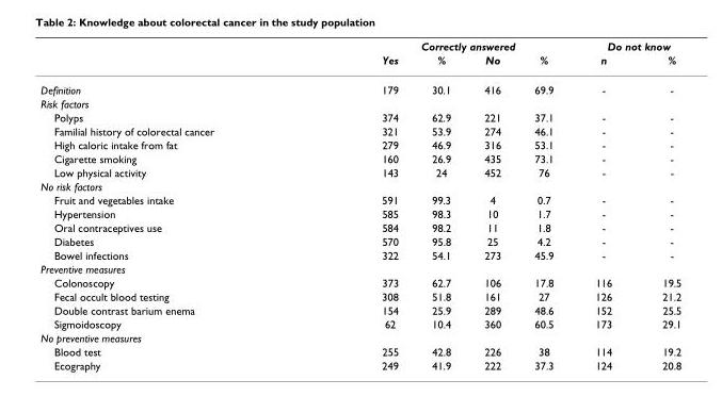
<table><thead><tr><td rowspan="2"></td><td colspan="4">Correctly answered</td><td colspan="2">Do not know</td></tr><tr><td>Yes</td><td>%</td><td>No</td><td>%</td><td>n</td><td>%</td></tr></thead><tbody><tr><td>Definition</td><td>179</td><td>30.1</td><td>416</td><td>69.9</td><td>-</td><td>-</td></tr><tr><td colspan="7">Risk factors</td></tr><tr><td>Polyps</td><td>374</td><td>62.9</td><td>221</td><td>37.1</td><td>-</td><td>-</td></tr><tr><td>Familial history of colorectal cancer</td><td>321</td><td>53.9</td><td>274</td><td>46.1</td><td>-</td><td>-</td></tr><tr><td>High caloric intake from fat</td><td>279</td><td>46.9</td><td>316</td><td>53.1</td><td>-</td><td>-</td></tr><tr><td>Cigarette smoking</td><td>160</td><td>26.9</td><td>435</td><td>73.1</td><td>-</td><td>-</td></tr><tr><td>Low physical activity</td><td>143</td><td>24</td><td>452</td><td>76</td><td>-</td><td>-</td></tr><tr><td colspan="7">No risk factors</td></tr><tr><td>Fruit and vegetables intake</td><td>591</td><td>99.3</td><td>4</td><td>0.7</td><td>-</td><td>-</td></tr><tr><td>Hypertension</td><td>585</td><td>98.3</td><td>10</td><td>1.7</td><td>-</td><td>-</td></tr><tr><td>Oral contraceptives use</td><td>584</td><td>98.2</td><td>11</td><td>1.8</td><td>-</td><td>-</td></tr><tr><td>Diabetes</td><td>570</td><td>95.8</td><td>25</td><td>4.2</td><td>-</td><td>-</td></tr><tr><td>Bowel infections</td><td>322</td><td>54.1</td><td>273</td><td>45.9</td><td>-</td><td>-</td></tr><tr><td colspan="7">Preventive measures</td></tr><tr><td>Colonoscopy</td><td>373</td><td>62.7</td><td>106</td><td>17.8</td><td>116</td><td>19.5</td></tr><tr><td>Fecal occult blood testing</td><td>308</td><td>51.8</td><td>161</td><td>27</td><td>126</td><td>21.2</td></tr><tr><td>Double contrast barium enema</td><td>154</td><td>25.9</td><td>289</td><td>48.6</td><td>152</td><td>25.5</td></tr><tr><td>Sigmoidoscopy</td><td>62</td><td>10.4</td><td>360</td><td>60.5</td><td>173</td><td>29.1</td></tr><tr><td colspan="7">No preventive measures</td></tr><tr><td>Blood test</td><td>255</td><td>42.8</td><td>226</td><td>38</td><td>114</td><td>19.2</td></tr><tr><td>Ecography</td><td>249</td><td>41.9</td><td>222</td><td>37.3</td><td>124</td><td>20.8</td></tr></tbody></table>